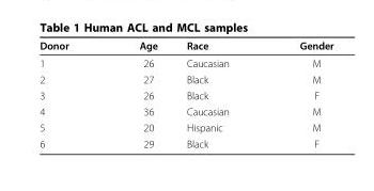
<table><thead><tr><td>Donor</td><td>Age</td><td>Race</td><td>Gender</td></tr></thead><tbody><tr><td>1</td><td>26</td><td>Caucasian</td><td>M</td></tr><tr><td>2</td><td>27</td><td>Black</td><td>M</td></tr><tr><td>3</td><td>26</td><td>Black</td><td>F</td></tr><tr><td>4</td><td>36</td><td>Caucasian</td><td>M</td></tr><tr><td>5</td><td>20</td><td>Hispanic</td><td>M</td></tr><tr><td>6</td><td>29</td><td>Black</td><td>F</td></tr></tbody></table>